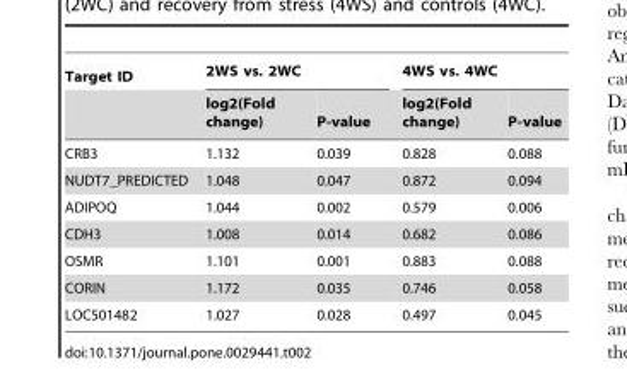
<table><thead><tr><td rowspan="2">Target ID</td><td colspan="2">2WS vs. 2WC</td><td colspan="2">4WS vs. 4WC</td></tr><tr><td>log2(Fold change)</td><td>P-value</td><td>log2(Fold change)</td><td>P-value</td></tr></thead><tbody><tr><td>CRB3</td><td>1.132</td><td>0.039</td><td>0.828</td><td>0.088</td></tr><tr><td>NUDT7_PREDICTED</td><td>1.048</td><td>0.047</td><td>0.872</td><td>0.094</td></tr><tr><td>ADIPOQ</td><td>1.044</td><td>0.002</td><td>0.579</td><td>0.006</td></tr><tr><td>CDH3</td><td>1.008</td><td>0.014</td><td>0.682</td><td>0.086</td></tr><tr><td>OSMR</td><td>1.101</td><td>0.001</td><td>0.883</td><td>0.088</td></tr><tr><td>CORIN</td><td>1.172</td><td>0.035</td><td>0.746</td><td>0.058</td></tr><tr><td>LOC501482</td><td>1.027</td><td>0.028</td><td>0.497</td><td>0.045</td></tr></tbody></table>